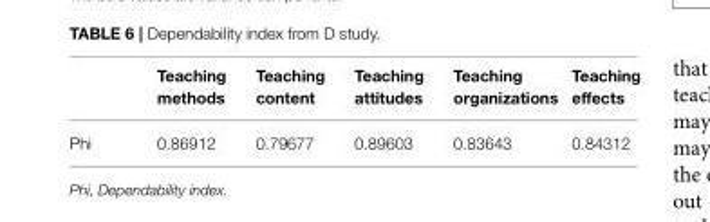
<table><thead><tr><td></td><td>Teaching methods</td><td>Teaching content</td><td>Teaching attitudes</td><td>Teaching organizations</td><td>Teaching effects</td></tr></thead><tbody><tr><td>Phi</td><td>0.86912</td><td>0.79677</td><td>0.89603</td><td>0.83643</td><td>0.84312</td></tr></tbody></table>